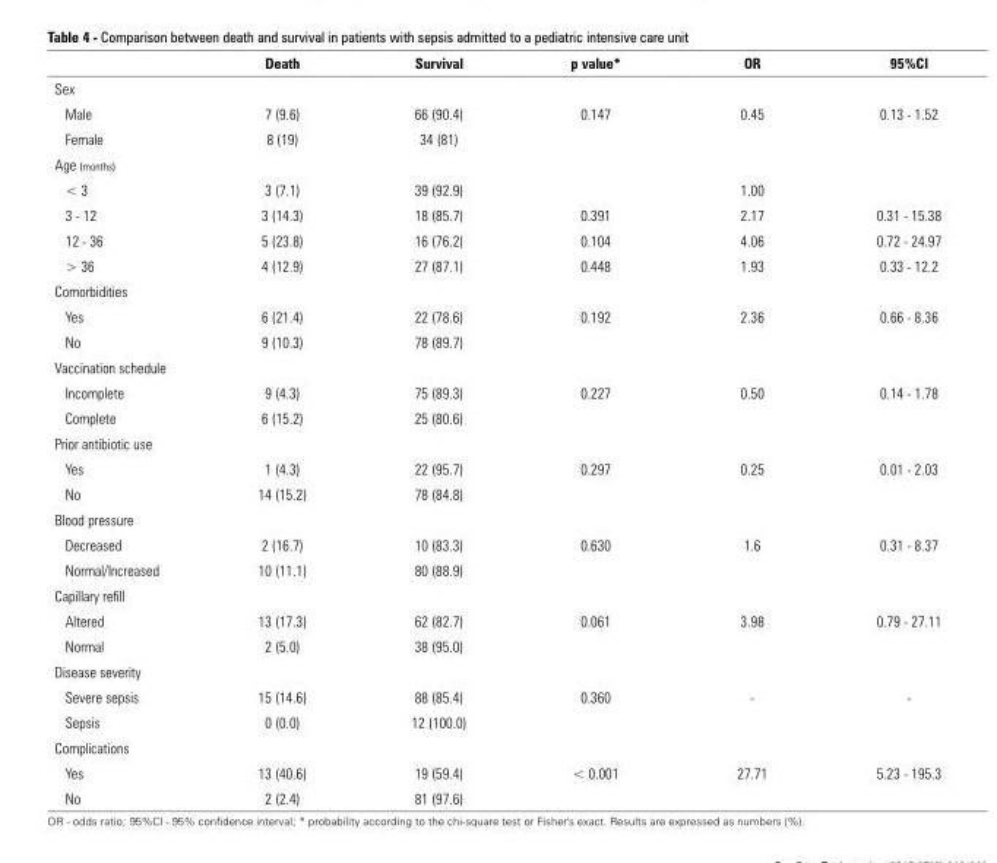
<table><thead><tr><td></td><td>Death</td><td>Survival</td><td>p value*</td><td>OR</td><td>95%CI</td></tr></thead><tbody><tr><td colspan="6">Sex</td></tr><tr><td>Male</td><td>7 (9.6)</td><td>66 (90.4)</td><td>0.147</td><td>0.45</td><td>0.13 - 1.52</td></tr><tr><td>Female</td><td>8 (19)</td><td>34 (81)</td><td></td><td></td><td></td></tr><tr><td colspan="6">Age (months)</td></tr><tr><td>&lt; 3</td><td>3 (7.1)</td><td>39 (92.9)</td><td></td><td>1.00</td><td></td></tr><tr><td>3 - 12</td><td>3 (14.3)</td><td>18 (85.7)</td><td>0.391</td><td>2.17</td><td>0.31 - 15.38</td></tr><tr><td>12 - 36</td><td>5 (23.8)</td><td>16 (76.2)</td><td>0.104</td><td>4.06</td><td>0.72 - 24.97</td></tr><tr><td>&gt; 36</td><td>4 (12.9)</td><td>27 (87.1)</td><td>0.448</td><td>1.93</td><td>0.33 - 12.2</td></tr><tr><td colspan="6">Comorbidities</td></tr><tr><td>Yes</td><td>6 (21.4)</td><td>22 (78.6)</td><td>0.192</td><td>2.36</td><td>0.66 - 8.36</td></tr><tr><td>No</td><td>9 (10.3)</td><td>78 (89.7)</td><td></td><td></td><td></td></tr><tr><td colspan="6">Vaccination schedule</td></tr><tr><td>Incomplete</td><td>9 (4.3)</td><td>75 (89.3)</td><td>0.227</td><td>0.50</td><td>0.14 - 1.78</td></tr><tr><td>Complete</td><td>6 (15.2)</td><td>25 (80.6)</td><td></td><td></td><td></td></tr><tr><td colspan="6">Prior antibiotic use</td></tr><tr><td>Yes</td><td>1 (4.3)</td><td>22 (95.7)</td><td>0.297</td><td>0.25</td><td>0.01 - 2.03</td></tr><tr><td>No</td><td>14 (15.2)</td><td>78 (84.8)</td><td></td><td></td><td></td></tr><tr><td colspan="6">Blood pressure</td></tr><tr><td>Decreased</td><td>2 (16.7)</td><td>10 (83.3)</td><td>0.630</td><td>1.6</td><td>0.31 - 8.37</td></tr><tr><td>Normal/Increased</td><td>10 (11.1)</td><td>80 (88.9)</td><td></td><td></td><td></td></tr><tr><td colspan="6">Capillary refill</td></tr><tr><td>Altered</td><td>13 (17.3)</td><td>62 (82.7)</td><td>0.061</td><td>3.98</td><td>0.79 - 27.11</td></tr><tr><td>Normal</td><td>2 (5.0)</td><td>38 (95.0)</td><td></td><td></td><td></td></tr><tr><td colspan="6">Disease severity</td></tr><tr><td>Severe sepsis</td><td>15 (14.6)</td><td>88 (85.4)</td><td>0.360</td><td>-</td><td>-</td></tr><tr><td>Sepsis</td><td>0 (0.0)</td><td>12 (100.0)</td><td></td><td></td><td></td></tr><tr><td colspan="6">Complications</td></tr><tr><td>Yes</td><td>13 (40.6)</td><td>19 (59.4)</td><td>&lt; 0.001</td><td>27.71</td><td>5.23 - 195.3</td></tr><tr><td>No</td><td>2 (2.4)</td><td>81 (97.6)</td><td></td><td></td><td></td></tr></tbody></table>